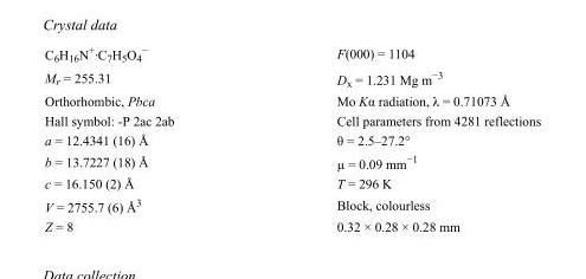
<table><tbody><tr><td>C<sub>6</sub>H<sub>16</sub>N<sup>+</sup>·C<sub>7</sub>H<sub>5</sub>O<sub>4</sub> <sup>−</sup></td><td>F(000) = 1104</td></tr><tr><td>M<sub>r</sub> = 255.31</td><td>D<sub>x</sub> = 1.231 Mg m<sup>−3</sup></td></tr><tr><td>Orthorhombic, Pbca</td><td>Mo Kα radiation, λ = 0.71073 Å</td></tr><tr><td>Hall symbol: -P 2ac 2ab</td><td>Cell parameters from 4281 reflections</td></tr><tr><td>a = 12.4341 (16) Å</td><td>θ = 2.5–27.2°</td></tr><tr><td>b = 13.7227 (18) Å</td><td>µ = 0.09 mm<sup>−1</sup></td></tr><tr><td>c = 16.150 (2) Å</td><td>T = 296 K</td></tr><tr><td>V = 2755.7 (6) Å<sup>3</sup></td><td>Block, colourless</td></tr><tr><td>Z = 8</td><td>0.32 × 0.28 × 0.28 mm</td></tr></tbody></table>